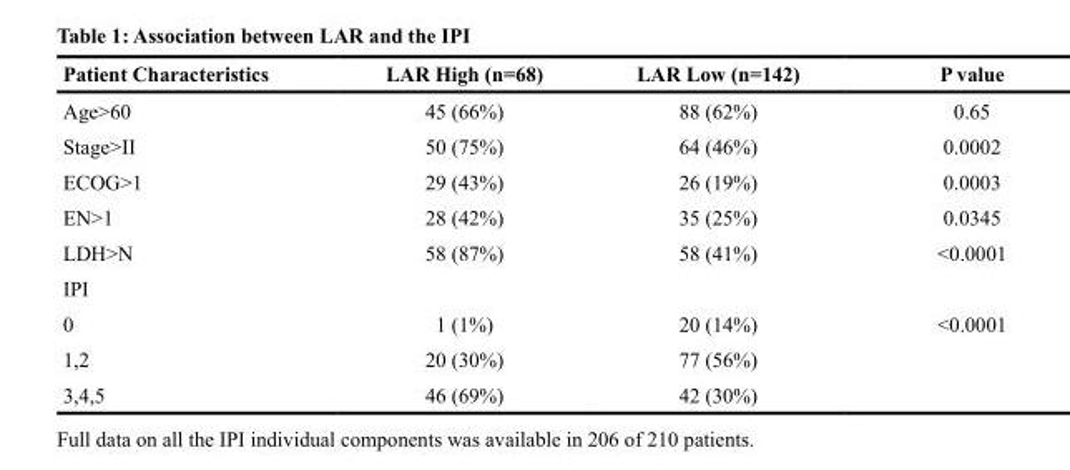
<table><thead><tr><td>Patient Characteristics</td><td>LAR High (n=68)</td><td>LAR Low (n=142)</td><td>P value</td></tr></thead><tbody><tr><td>Age&gt;60</td><td>45 (66%)</td><td>88 (62%)</td><td>0.65</td></tr><tr><td>Stage&gt;II</td><td>50 (75%)</td><td>64 (46%)</td><td>0.0002</td></tr><tr><td>ECOG&gt;1</td><td>29 (43%)</td><td>26 (19%)</td><td>0.0003</td></tr><tr><td>EN&gt;1</td><td>28 (42%)</td><td>35 (25%)</td><td>0.0345</td></tr><tr><td>LDH&gt;N</td><td>58 (87%)</td><td>58 (41%)</td><td>&lt;0.0001</td></tr><tr><td colspan="4">IPI</td></tr><tr><td>0</td><td>1 (1%)</td><td>20 (14%)</td><td>&lt;0.0001</td></tr><tr><td>1,2</td><td>20 (30%)</td><td>77 (56%)</td><td></td></tr><tr><td>3,4,5</td><td>46 (69%)</td><td>42 (30%)</td><td></td></tr></tbody></table>